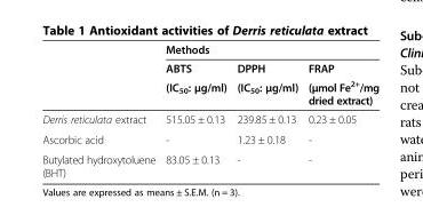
<table><thead><tr><td rowspan="3"></td><td colspan="3">Methods</td></tr><tr><td rowspan="2">ABTS (IC<sub>50</sub>: μg/ml)</td><td rowspan="2">DPPH (IC<sub>50</sub>: μg/ml)</td><td rowspan="2">FRAP (μmol Fe<sup>2+</sup>/mg dried extract)</td></tr><tr></tr></thead><tbody><tr><td>Derris reticulata extract</td><td>515.05 ± 0.13</td><td>239.85 ± 0.13</td><td>0.23 ± 0.05</td></tr><tr><td>Ascorbic acid</td><td>-</td><td>1.23 ± 0.18</td><td>-</td></tr><tr><td>Butylated hydroxytoluene (BHT)</td><td>83.05 ± 0.13</td><td>-</td><td>-</td></tr></tbody></table>